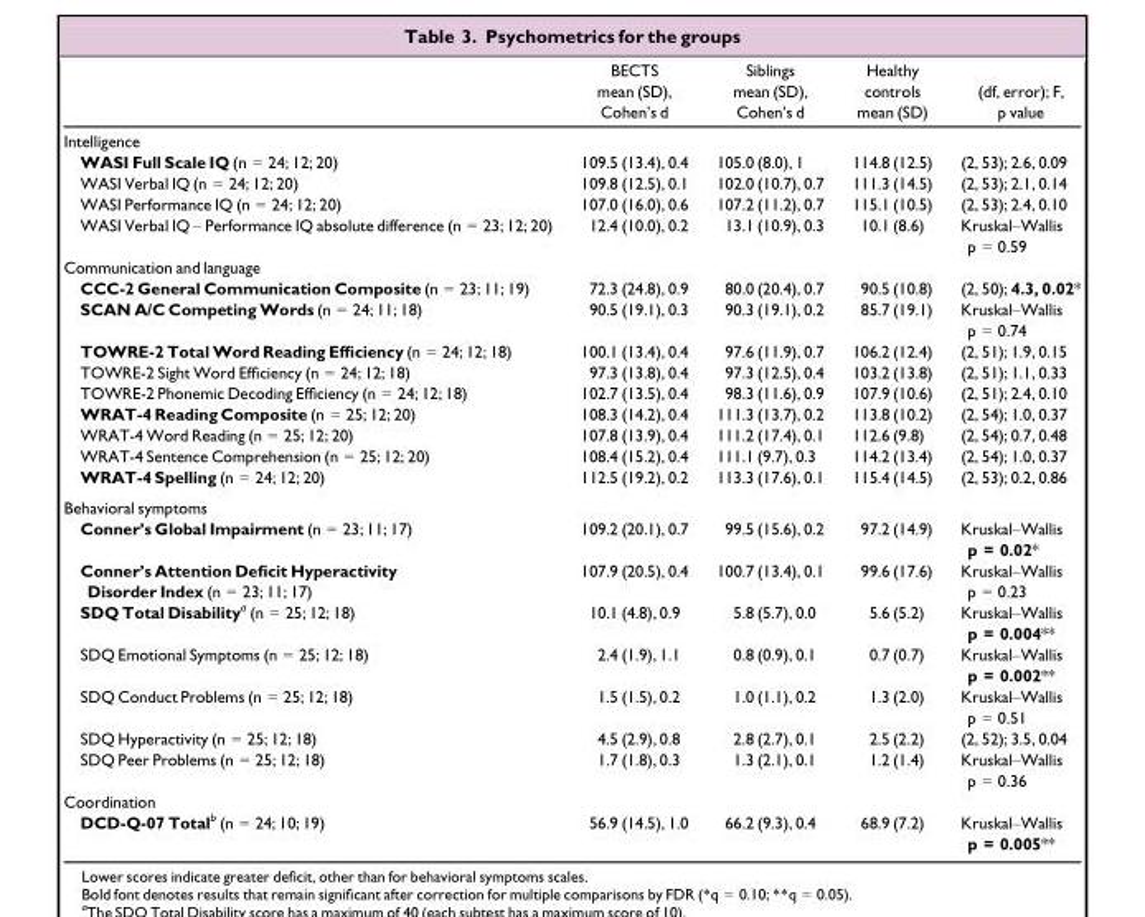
<table><thead><tr><td></td><td>BECTS mean (SD), Cohen’s d</td><td>Siblings mean (SD), Cohen’s d</td><td>Healthy controls mean (SD)</td><td>(df, error); F, p value</td></tr></thead><tbody><tr><td colspan="5">Intelligence</td></tr><tr><td>WASI Full Scale IQ (n = 24; 12; 20)</td><td>109.5 (13.4), 0.4</td><td>105.0 (8.0), 1</td><td>114.8 (12.5)</td><td>(2, 53); 2.6, 0.09</td></tr><tr><td>WASI Verbal IQ (n = 24; 12; 20)</td><td>109.8 (12.5), 0.1</td><td>102.0 (10.7), 0.7</td><td>111.3 (14.5)</td><td>(2, 53); 2.1, 0.14</td></tr><tr><td>WASI Performance IQ (n = 24; 12; 20)</td><td>107.0 (16.0), 0.6</td><td>107.2 (11.2), 0.7</td><td>115.1 (10.5)</td><td>(2, 53); 2.4, 0.10</td></tr><tr><td>WASI Verbal IQ – Performance IQ absolute difference (n = 23; 12; 20)</td><td>12.4 (10.0), 0.2</td><td>13.1 (10.9), 0.3</td><td>10.1 (8.6)</td><td>Kruskal–Wallis p = 0.59</td></tr><tr><td colspan="5">Communication and language</td></tr><tr><td>CCC-2 General Communication Composite (n = 23; 11; 19)</td><td>72.3 (24.8), 0.9</td><td>80.0 (20.4), 0.7</td><td>90.5 (10.8)</td><td>(2, 50); 4.3, 0.02*</td></tr><tr><td>SCAN A/C Competing Words (n = 24; 11; 18)</td><td>90.5 (19.1), 0.3</td><td>90.3 (19.1), 0.2</td><td>85.7 (19.1)</td><td>Kruskal–Wallis p = 0.74</td></tr><tr><td>TOWRE-2 Total Word Reading Efficiency (n = 24; 12; 18)</td><td>100.1 (13.4), 0.4</td><td>97.6 (11.9), 0.7</td><td>106.2 (12.4)</td><td>(2, 51); 1.9, 0.15</td></tr><tr><td>TOWRE-2 Sight Word Efficiency (n = 24; 12; 18)</td><td>97.3 (13.8), 0.4</td><td>97.3 (12.5), 0.4</td><td>103.2 (13.8)</td><td>(2, 51); 1.1, 0.33</td></tr><tr><td>TOWRE-2 Phonemic Decoding Efficiency (n = 24; 12; 18)</td><td>102.7 (13.5), 0.4</td><td>98.3 (11.6), 0.9</td><td>107.9 (10.6)</td><td>(2, 51); 2.4, 0.10</td></tr><tr><td>WRAT-4 Reading Composite (n = 25; 12; 20)</td><td>108.3 (14.2), 0.4</td><td>111.3 (13.7), 0.2</td><td>113.8 (10.2)</td><td>(2, 54); 1.0, 0.37</td></tr><tr><td>WRAT-4 Word Reading (n = 25; 12; 20)</td><td>107.8 (13.9), 0.4</td><td>111.2 (17.4), 0.1</td><td>112.6 (9.8)</td><td>(2, 54); 0.7, 0.48</td></tr><tr><td>WRAT-4 Sentence Comprehension (n = 25; 12; 20)</td><td>108.4 (15.2), 0.4</td><td>111.1 (9.7), 0.3</td><td>114.2 (13.4)</td><td>(2, 54); 1.0, 0.37</td></tr><tr><td>WRAT-4 Spelling (n = 24; 12; 20)</td><td>112.5 (19.2), 0.2</td><td>113.3 (17.6), 0.1</td><td>115.4 (14.5)</td><td>(2, 53); 0.2, 0.86</td></tr><tr><td colspan="5">Behavioral symptoms</td></tr><tr><td>Conner’s Global Impairment (n = 23; 11; 17)</td><td>109.2 (20.1), 0.7</td><td>99.5 (15.6), 0.2</td><td>97.2 (14.9)</td><td>Kruskal–Wallis p = 0.02*</td></tr><tr><td>Conner’s Attention Deficit Hyperactivity Disorder Index (n = 23; 11; 17)</td><td>107.9 (20.5), 0.4</td><td>100.7 (13.4), 0.1</td><td>99.6 (17.6)</td><td>Kruskal–Wallis p = 0.23</td></tr><tr><td>SDQ Total Disabilitya (n = 25; 12; 18)</td><td>10.1 (4.8), 0.9</td><td>5.8 (5.7), 0.0</td><td>5.6 (5.2)</td><td>Kruskal–Wallis p = 0.004**</td></tr><tr><td>SDQ Emotional Symptoms (n = 25; 12; 18)</td><td>2.4 (1.9), 1.1</td><td>0.8 (0.9), 0.1</td><td>0.7 (0.7)</td><td>Kruskal–Wallis p = 0.002**</td></tr><tr><td>SDQ Conduct Problems (n = 25; 12; 18)</td><td>1.5 (1.5), 0.2</td><td>1.0 (1.1), 0.2</td><td>1.3 (2.0)</td><td>Kruskal–Wallis p = 0.51</td></tr><tr><td>SDQ Hyperactivity (n = 25; 12; 18)</td><td>4.5 (2.9), 0.8</td><td>2.8 (2.7), 0.1</td><td>2.5 (2.2)</td><td>(2, 52); 3.5, 0.04</td></tr><tr><td>SDQ Peer Problems (n = 25; 12; 18)</td><td>1.7 (1.8), 0.3</td><td>1.3 (2.1), 0.1</td><td>1.2 (1.4)</td><td>Kruskal–Wallis p = 0.36</td></tr><tr><td colspan="5">Coordination</td></tr><tr><td>DCD-Q-07 Totalb (n = 24; 10; 19)</td><td>56.9 (14.5), 1.0</td><td>66.2 (9.3), 0.4</td><td>68.9 (7.2)</td><td>Kruskal–Wallis p = 0.005**</td></tr></tbody></table>